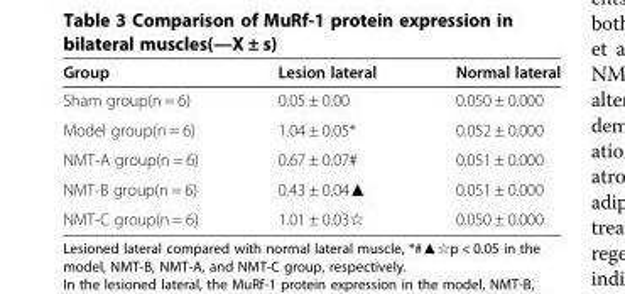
<table><thead><tr><td>Group</td><td>Lesion lateral</td><td>Normal lateral</td></tr></thead><tbody><tr><td>Sham group(n = 6)</td><td>0.05 ± 0.00</td><td>0.050 ± 0.000</td></tr><tr><td>Model group(n = 6)</td><td>1.04 ± 0.05*</td><td>0.052 ± 0.000</td></tr><tr><td>NMT-A group(n = 6)</td><td>0.67 ± 0.07#</td><td>0.051 ± 0.000</td></tr><tr><td>NMT-B group(n = 6)</td><td>0.43 ± 0.04▲</td><td>0.051 ± 0.000</td></tr><tr><td>NMT-C group(n = 6)</td><td>1.01 ± 0.03☆</td><td>0.050 ± 0.000</td></tr></tbody></table>